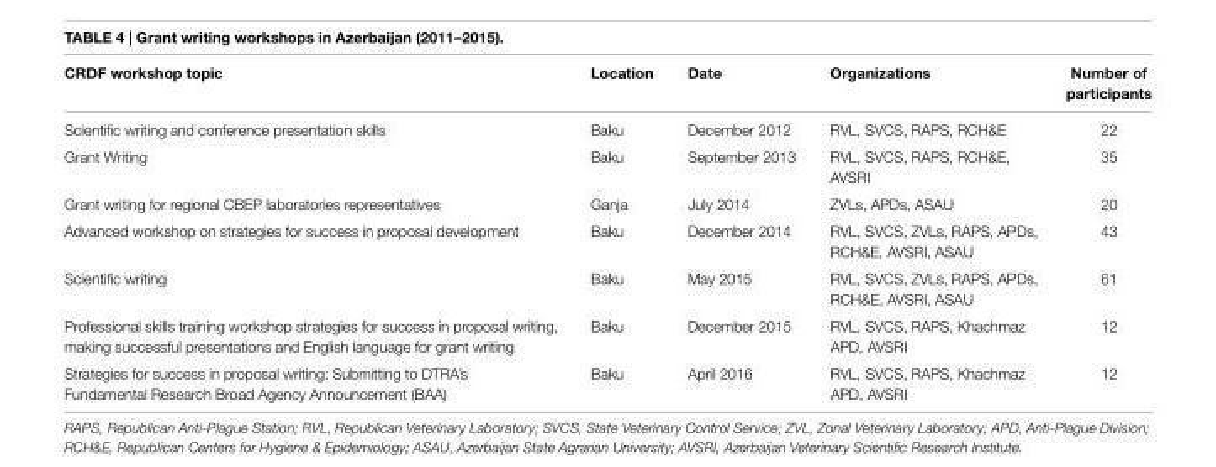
<table><thead><tr><td>CRDF workshop topic</td><td>Location</td><td>Date</td><td>Organizations</td><td>Number of participants</td></tr></thead><tbody><tr><td>Scientific writing and conference presentation skills</td><td>Baku</td><td>December 2012</td><td>RVL, SVCS, RAPS, RCH&amp;E</td><td>22</td></tr><tr><td>Grant Writing</td><td>Baku</td><td>September 2013</td><td>RVL, SVCS, RAPS, RCH&amp;E, AVSRI</td><td>35</td></tr><tr><td>Grant writing for regional CBEP laboratories representatives</td><td>Ganja</td><td>July 2014</td><td>ZVLs, APDs, ASAU</td><td>20</td></tr><tr><td>Advanced workshop on strategies for success in proposal development</td><td>Baku</td><td>December 2014</td><td>RVL, SVCS, ZVLs, RAPS, APDs, RCH&amp;E, AVSRI, ASAU</td><td>43</td></tr><tr><td>Scientific writing</td><td>Baku</td><td>May 2015</td><td>RVL, SVCS, ZVLs, RAPS, APDs, RCH&amp;E, AVSRI, ASAU</td><td>61</td></tr><tr><td>Professional skills training workshop strategies for success in proposal writing, making successful presentations and English language for grant writing</td><td>Baku</td><td>December 2015</td><td>RVL, SVCS, RAPS, Khachmaz APD, AVSRI</td><td>12</td></tr><tr><td>Strategies for success in proposal writing: Submitting to DTRA’s Fundamental Research Broad Agency Announcement (BAA)</td><td>Baku</td><td>April 2016</td><td>RVL, SVCS, RAPS, Khachmaz APD, AVSRI</td><td>12</td></tr></tbody></table>